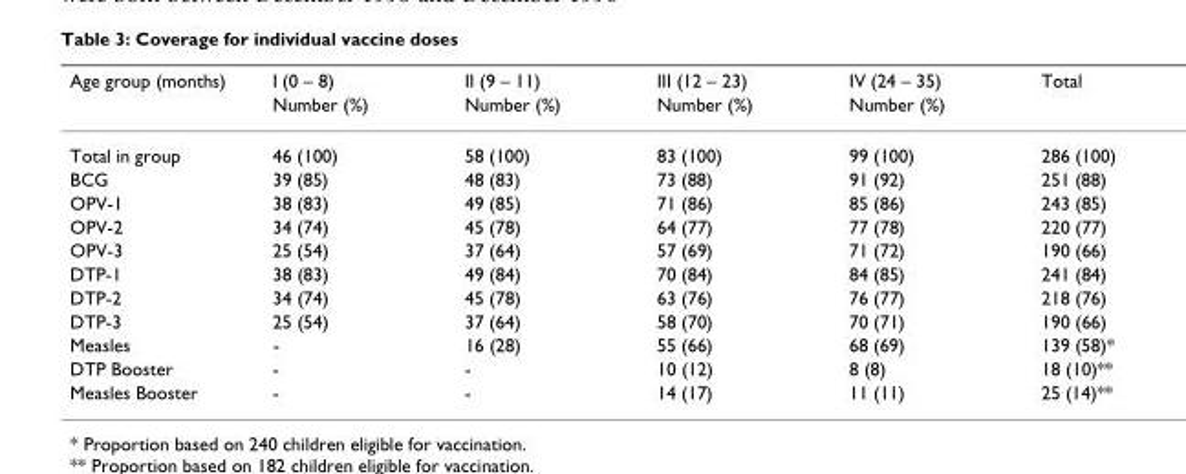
<table><thead><tr><td rowspan="2">Age group (months)</td><td rowspan="2">I (0 – 8) Number (%)</td><td rowspan="2">II (9 – 11) Number (%)</td><td rowspan="2">III (12 – 23) Number (%)</td><td rowspan="2">IV (24 – 35) Number (%)</td><td rowspan="2">Total</td></tr><tr></tr></thead><tbody><tr><td>Total in group</td><td>46 (100)</td><td>58 (100)</td><td>83 (100)</td><td>99 (100)</td><td>286 (100)</td></tr><tr><td>BCG</td><td>39 (85)</td><td>48 (83)</td><td>73 (88)</td><td>91 (92)</td><td>251 (88)</td></tr><tr><td>OPV-1</td><td>38 (83)</td><td>49 (85)</td><td>71 (86)</td><td>85 (86)</td><td>243 (85)</td></tr><tr><td>OPV-2</td><td>34 (74)</td><td>45 (78)</td><td>64 (77)</td><td>77 (78)</td><td>220 (77)</td></tr><tr><td>OPV-3</td><td>25 (54)</td><td>37 (64)</td><td>57 (69)</td><td>71 (72)</td><td>190 (66)</td></tr><tr><td>DTP-1</td><td>38 (83)</td><td>49 (84)</td><td>70 (84)</td><td>84 (85)</td><td>241 (84)</td></tr><tr><td>DTP-2</td><td>34 (74)</td><td>45 (78)</td><td>63 (76)</td><td>76 (77)</td><td>218 (76)</td></tr><tr><td>DTP-3</td><td>25 (54)</td><td>37 (64)</td><td>58 (70)</td><td>70 (71)</td><td>190 (66)</td></tr><tr><td>Measles</td><td>-</td><td>16 (28)</td><td>55 (66)</td><td>68 (69)</td><td>139 (58)*</td></tr><tr><td>DTP Booster</td><td>-</td><td>-</td><td>10 (12)</td><td>8 (8)</td><td>18 (10)**</td></tr><tr><td>Measles Booster</td><td>-</td><td>-</td><td>14 (17)</td><td>11 (11)</td><td>25 (14)**</td></tr></tbody></table>